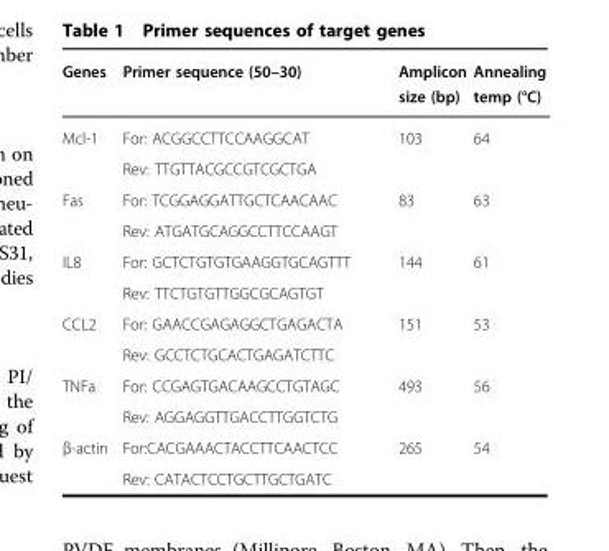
<table><thead><tr><td>Genes</td><td>Primer sequence (50–30)</td><td>Amplicon size (bp)</td><td>Annealing temp (°C)</td></tr></thead><tbody><tr><td rowspan="2">Mcl-1</td><td>For: ACGGCCTTCCAAGGCAT</td><td rowspan="2">103</td><td rowspan="2">64</td></tr><tr><td>Rev: TTGTTACGCCGTCGCTGA</td></tr><tr><td rowspan="2">Fas</td><td>For: TCGGAGGATTGCTCAACAAC</td><td rowspan="2">83</td><td rowspan="2">63</td></tr><tr><td>Rev: ATGATGCAGGCCTTCCAAGT</td></tr><tr><td rowspan="2">IL8</td><td>For: GCTCTGTGTGAAGGTGCAGTTT</td><td rowspan="2">144</td><td rowspan="2">61</td></tr><tr><td>Rev: TTCTGTGTTGGCGCAGTGT</td></tr><tr><td rowspan="2">CCL2</td><td>For: GAACCGAGAGGCTGAGACTA</td><td rowspan="2">151</td><td rowspan="2">53</td></tr><tr><td>Rev: GCCTCTGCACTGAGATCTTC</td></tr><tr><td rowspan="2">TNFa</td><td>For: CCGAGTGACAAGCCTGTAGC</td><td rowspan="2">493</td><td rowspan="2">56</td></tr><tr><td>Rev: AGGAGGTTGACCTTGGTCTG</td></tr><tr><td rowspan="2">β-actin</td><td>For:CACGAAACTACCTTCAACTCC</td><td rowspan="2">265</td><td rowspan="2">54</td></tr><tr><td>Rev: CATACTCCTGCTTGCTGATC</td></tr></tbody></table>